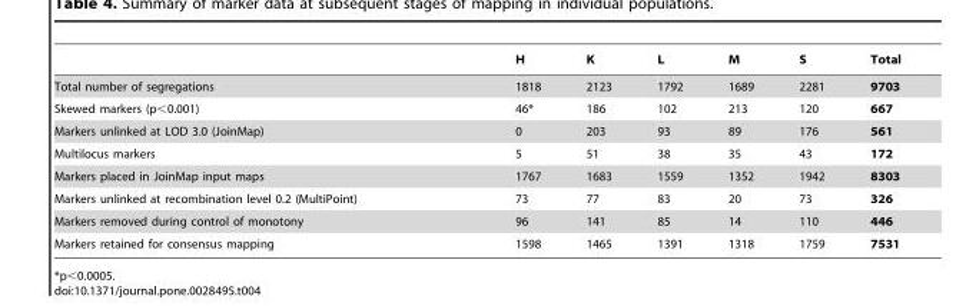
<table><thead><tr><td></td><td>H</td><td>K</td><td>L</td><td>M</td><td>S</td><td>Total</td></tr></thead><tbody><tr><td>Total number of segregations</td><td>1818</td><td>2123</td><td>1792</td><td>1689</td><td>2281</td><td>9703</td></tr><tr><td>Skewed markers (p&lt;0.001)</td><td>46*</td><td>186</td><td>102</td><td>213</td><td>120</td><td>667</td></tr><tr><td>Markers unlinked at LOD 3.0 (JoinMap)</td><td>0</td><td>203</td><td>93</td><td>89</td><td>176</td><td>561</td></tr><tr><td>Multilocus markers</td><td>5</td><td>51</td><td>38</td><td>35</td><td>43</td><td>172</td></tr><tr><td>Markers placed in JoinMap input maps</td><td>1767</td><td>1683</td><td>1559</td><td>1352</td><td>1942</td><td>8303</td></tr><tr><td>Markers unlinked at recombination level 0.2 (MultiPoint)</td><td>73</td><td>77</td><td>83</td><td>20</td><td>73</td><td>326</td></tr><tr><td>Markers removed during control of monotony</td><td>96</td><td>141</td><td>85</td><td>14</td><td>110</td><td>446</td></tr><tr><td>Markers retained for consensus mapping</td><td>1598</td><td>1465</td><td>1391</td><td>1318</td><td>1759</td><td>7531</td></tr></tbody></table>